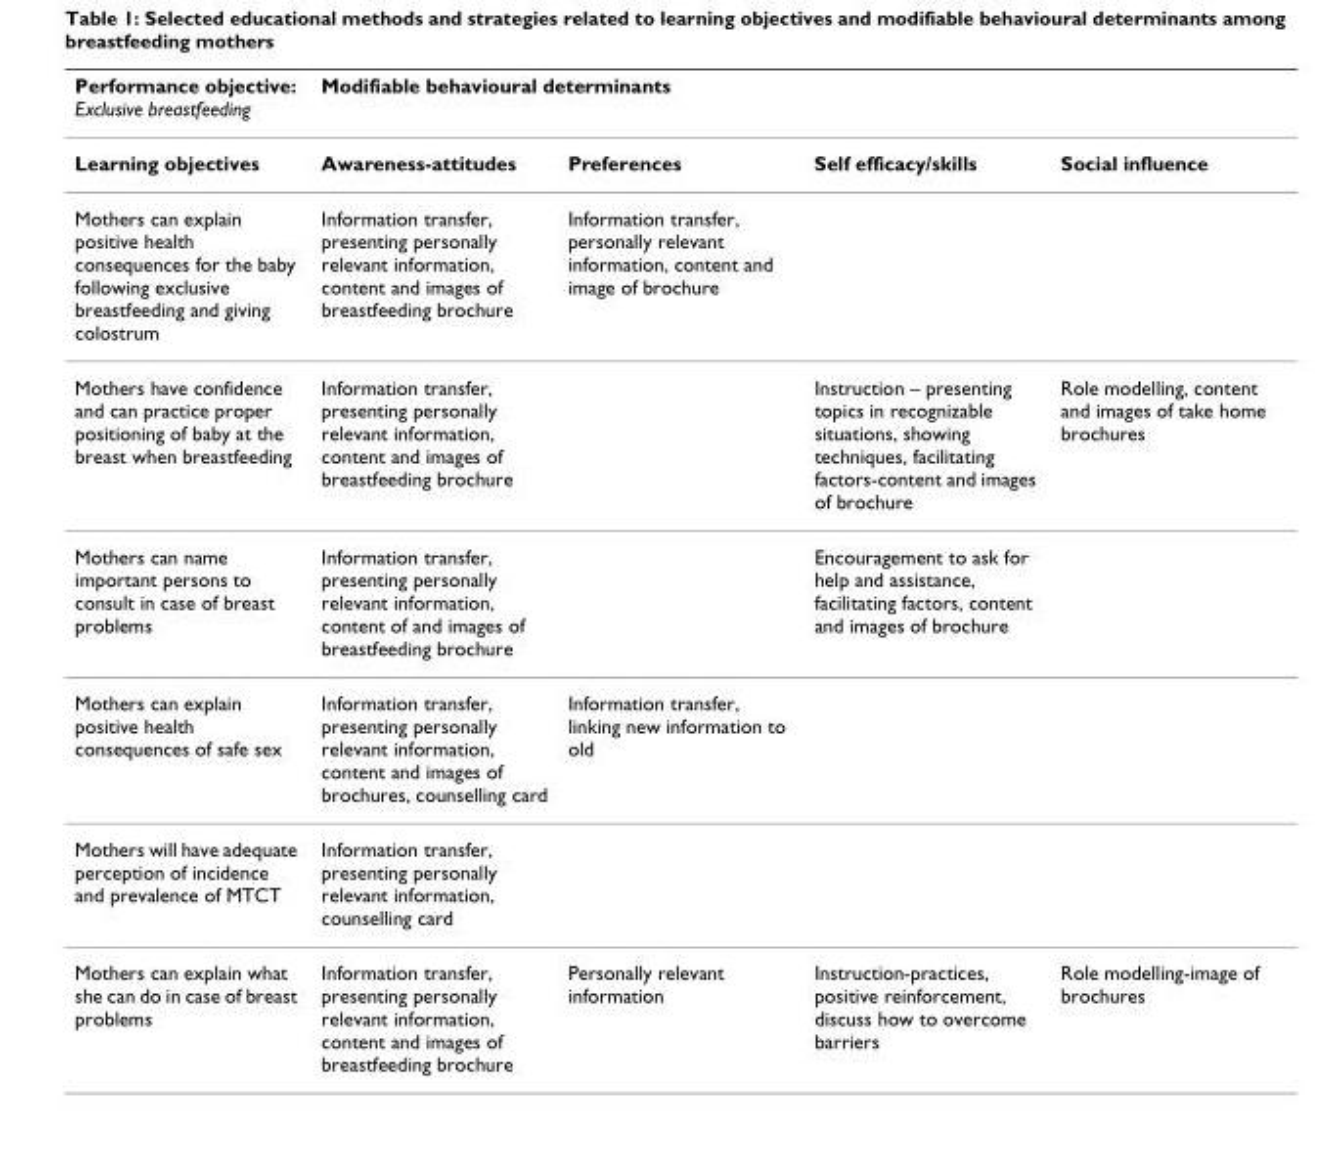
<table><thead><tr><td rowspan="2">Performance objective: Exclusive breastfeeding Learning objectives</td><td colspan="4">Modifiable behavioural determinants</td></tr><tr><td>Awareness-attitudes</td><td>Preferences</td><td>Self efficacy/skills</td><td>Social influence</td></tr></thead><tbody><tr><td>Mothers can explain positive health consequences for the baby following exclusive breastfeeding and giving colostrum</td><td>Information transfer, presenting personally relevant information, content and images of breastfeeding brochure</td><td>Information transfer, personally relevant information, content and image of brochure</td><td></td><td></td></tr><tr><td>Mothers have confidence and can practice proper positioning of baby at the breast when breastfeeding</td><td>Information transfer, presenting personally relevant information, content and images of breastfeeding brochure</td><td></td><td>Instruction – presenting topics in recognizable situations, showing techniques, facilitating factors-content and images of brochure</td><td>Role modelling, content and images of take home brochures</td></tr><tr><td>Mothers can name important persons to consult in case of breast problems</td><td>Information transfer, presenting personally relevant information, content of and images of breastfeeding brochure</td><td></td><td>Encouragement to ask for help and assistance, facilitating factors, content and images of brochure</td><td></td></tr><tr><td>Mothers can explain positive health consequences of safe sex</td><td>Information transfer, presenting personally relevant information, content and images of brochures, counselling card</td><td>Information transfer, linking new information to old</td><td></td><td></td></tr><tr><td>Mothers will have adequate perception of incidence and prevalence of MTCT</td><td>Information transfer, presenting personally relevant information, counselling card</td><td></td><td></td><td></td></tr><tr><td>Mothers can explain what she can do in case of breast problems</td><td>Information transfer, presenting personally relevant information, content and images of breastfeeding brochure</td><td>Personally relevant information</td><td>Instruction-practices, positive reinforcement, discuss how to overcome barriers</td><td>Role modelling-image of brochures</td></tr></tbody></table>